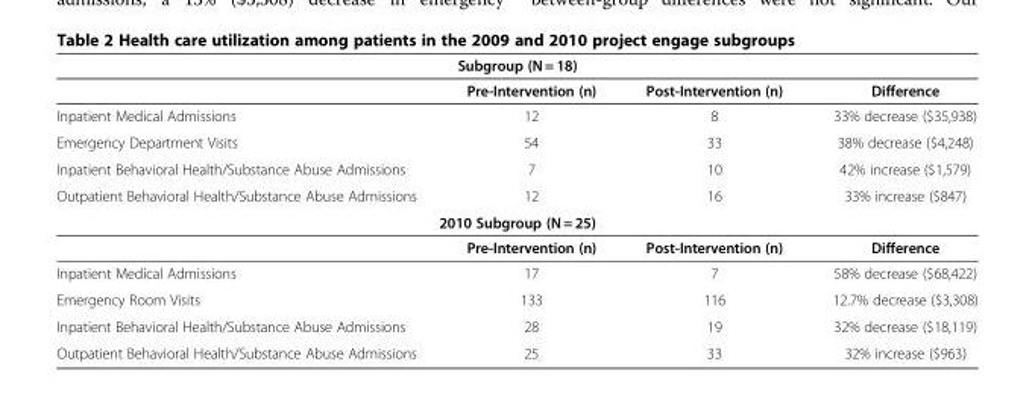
<table><thead><tr><td colspan="4">Subgroup (N = 18)</td></tr><tr><td></td><td>Pre-Intervention (n)</td><td>Post-Intervention (n)</td><td>Difference</td></tr></thead><tbody><tr><td>Inpatient Medical Admissions</td><td>12</td><td>8</td><td>33% decrease ($35,938)</td></tr><tr><td>Emergency Department Visits</td><td>54</td><td>33</td><td>38% decrease ($4,248)</td></tr><tr><td>Inpatient Behavioral Health/Substance Abuse Admissions</td><td>7</td><td>10</td><td>42% increase ($1,579)</td></tr><tr><td>Outpatient Behavioral Health/Substance Abuse Admissions</td><td>12</td><td>16</td><td>33% increase ($847)</td></tr><tr><td colspan="4">2010 Subgroup (N = 25)</td></tr><tr><td></td><td>Pre-Intervention (n)</td><td>Post-Intervention (n)</td><td>Difference</td></tr><tr><td>Inpatient Medical Admissions</td><td>17</td><td>7</td><td>58% decrease ($68,422)</td></tr><tr><td>Emergency Room Visits</td><td>133</td><td>116</td><td>12.7% decrease ($3,308)</td></tr><tr><td>Inpatient Behavioral Health/Substance Abuse Admissions</td><td>28</td><td>19</td><td>32% decrease ($18,119)</td></tr><tr><td>Outpatient Behavioral Health/Substance Abuse Admissions</td><td>25</td><td>33</td><td>32% increase ($963)</td></tr></tbody></table>